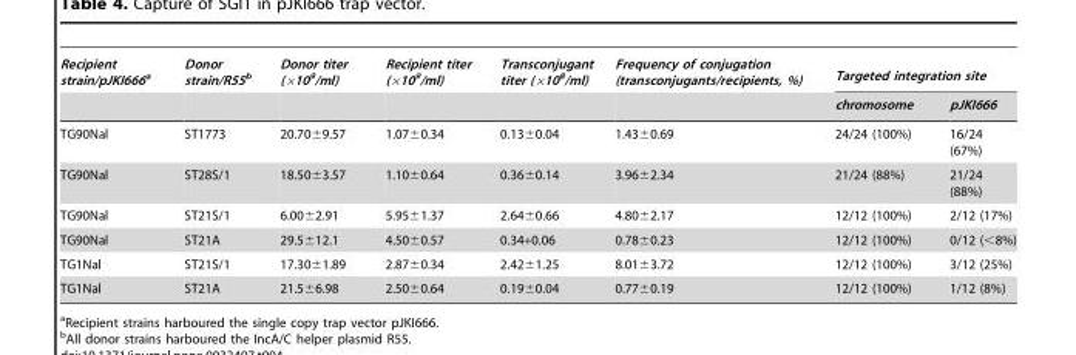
<table><thead><tr><td rowspan="2">Recipient strain/pJKI666a</td><td rowspan="2">Donor strain/R55b</td><td rowspan="2">Donor titer (×10<sup>9</sup>/ml)</td><td rowspan="2">Recipient titer (×10<sup>9</sup>/ml)</td><td rowspan="2">Transconjugant titer (×10<sup>8</sup>/ml)</td><td rowspan="2">Frequency of conjugation (transconjugants/recipients, %)</td><td colspan="2">Targeted integration site</td></tr><tr><td>chromosome</td><td>pJKI666</td></tr></thead><tbody><tr><td>TG90Nal</td><td>ST1773</td><td>20.70±9.57</td><td>1.07±0.34</td><td>0.13±0.04</td><td>1.43±0.69</td><td>24/24 (100%)</td><td>16/24 (67%)</td></tr><tr><td>TG90Nal</td><td>ST28S/1</td><td>18.50±3.57</td><td>1.10±0.64</td><td>0.36±0.14</td><td>3.96±2.34</td><td>21/24 (88%)</td><td>21/24 (88%)</td></tr><tr><td>TG90Nal</td><td>ST21S/1</td><td>6.00±2.91</td><td>5.95±1.37</td><td>2.64±0.66</td><td>4.80±2.17</td><td>12/12 (100%)</td><td>2/12 (17%)</td></tr><tr><td>TG90Nal</td><td>ST21A</td><td>29.5±12.1</td><td>4.50±0.57</td><td>0.34+0.06</td><td>0.78±0.23</td><td>12/12 (100%)</td><td>0/12 (&lt;8%)</td></tr><tr><td>TG1Nal</td><td>ST21S/1</td><td>17.30±1.89</td><td>2.87±0.34</td><td>2.42±1.25</td><td>8.01±3.72</td><td>12/12 (100%)</td><td>3/12 (25%)</td></tr><tr><td>TG1Nal</td><td>ST21A</td><td>21.5±6.98</td><td>2.50±0.64</td><td>0.19±0.04</td><td>0.77±0.19</td><td>12/12 (100%)</td><td>1/12 (8%)</td></tr></tbody></table>